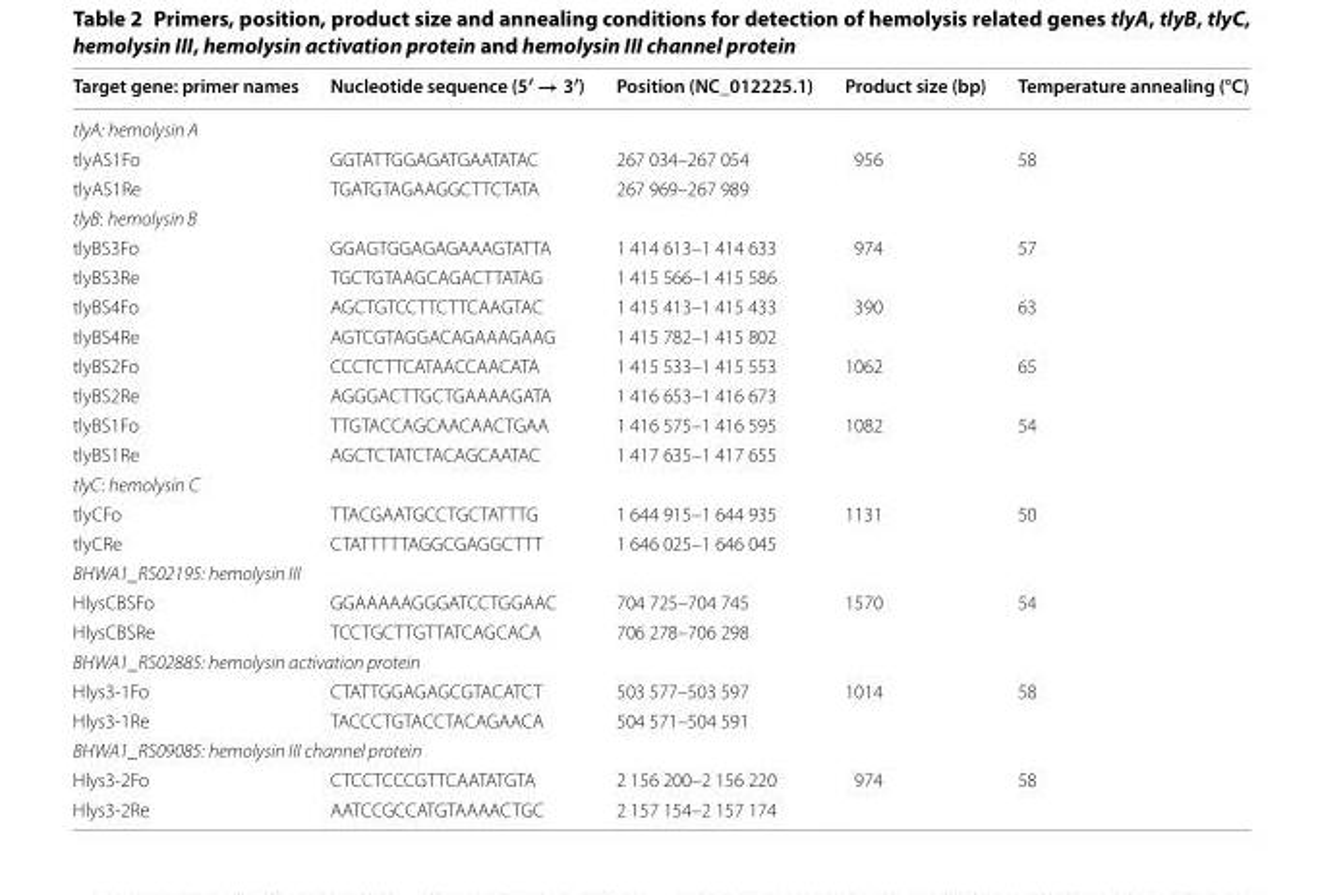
<table><thead><tr><td>Target gene: primer names</td><td>Nucleotide sequence (5′ → 3′)</td><td>Position (NC_012225.1)</td><td>Product size (bp)</td><td>Temperature annealing (°C)</td></tr></thead><tbody><tr><td colspan="5">tlyA: hemolysin A</td></tr><tr><td>tlyAS1Fo</td><td>GGTATTGGAGATGAATATAC</td><td>267 034–267 054</td><td>956</td><td>58</td></tr><tr><td>tlyAS1Re</td><td>TGATGTAGAAGGCTTCTATA</td><td>267 969–267 989</td><td></td><td></td></tr><tr><td colspan="5">tlyB: hemolysin B</td></tr><tr><td>tlyBS3Fo</td><td>GGAGTGGAGAGAAAGTATTA</td><td>1 414 613–1 414 633</td><td>974</td><td>57</td></tr><tr><td>tlyBS3Re</td><td>TGCTGTAAGCAGACTTATAG</td><td>1 415 566–1 415 586</td><td></td><td></td></tr><tr><td>tlyBS4Fo</td><td>AGCTGTCCTTCTTCAAGTAC</td><td>1 415 413–1 415 433</td><td>390</td><td>63</td></tr><tr><td>tlyBS4Re</td><td>AGTCGTAGGACAGAAAGAAG</td><td>1 415 782–1 415 802</td><td></td><td></td></tr><tr><td>tlyBS2Fo</td><td>CCCTCTTCATAACCAACATA</td><td>1 415 533–1 415 553</td><td>1062</td><td>65</td></tr><tr><td>tlyBS2Re</td><td>AGGGACTTGCTGAAAAGATA</td><td>1 416 653–1 416 673</td><td></td><td></td></tr><tr><td>tlyBS1Fo</td><td>TTGTACCAGCAACAACTGAA</td><td>1 416 575–1 416 595</td><td>1082</td><td>54</td></tr><tr><td>tlyBS1Re</td><td>AGCTCTATCTACAGCAATAC</td><td>1 417 635–1 417 655</td><td></td><td></td></tr><tr><td colspan="5">tlyC: hemolysin C</td></tr><tr><td>tlyCFo</td><td>TTACGAATGCCTGCTATTTG</td><td>1 644 915–1 644 935</td><td>1131</td><td>50</td></tr><tr><td>tlyCRe</td><td>CTATTTTTAGGCGAGGCTTT</td><td>1 646 025–1 646 045</td><td></td><td></td></tr><tr><td colspan="5">BHWA1_RS02195: hemolysin III</td></tr><tr><td>HlysCBSFo</td><td>GGAAAAAGGGATCCTGGAAC</td><td>704 725–704 745</td><td>1570</td><td>54</td></tr><tr><td>HlysCBSRe</td><td>TCCTGCTTGTTATCAGCACA</td><td>706 278–706 298</td><td></td><td></td></tr><tr><td colspan="5">BHWA1_RS02885: hemolysin activation protein</td></tr><tr><td>Hlys3‑1Fo</td><td>CTATTGGAGAGCGTACATCT</td><td>503 577–503 597</td><td>1014</td><td>58</td></tr><tr><td>Hlys3‑1Re</td><td>TACCCTGTACCTACAGAACA</td><td>504 571–504 591</td><td></td><td></td></tr><tr><td colspan="5">BHWA1_RS09085: hemolysin III channel protein</td></tr><tr><td>Hlys3‑2Fo</td><td>CTCCTCCCGTTCAATATGTA</td><td>2 156 200–2 156 220</td><td>974</td><td>58</td></tr><tr><td>Hlys3‑2Re</td><td>AATCCGCCATGTAAAACTGC</td><td>2 157 154–2 157 174</td><td></td><td></td></tr></tbody></table>